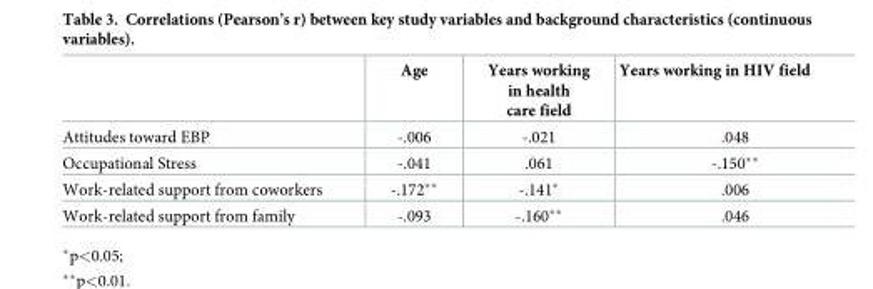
<table><thead><tr><td></td><td>Age</td><td>Years working in health care field</td><td>Years working in HIV field</td></tr></thead><tbody><tr><td>Attitudes toward EBP</td><td>-.006</td><td>-.021</td><td>.048</td></tr><tr><td>Occupational Stress</td><td>-.041</td><td>.061</td><td>-.150**</td></tr><tr><td>Work-related support from coworkers</td><td>-.172**</td><td>-.141*</td><td>.006</td></tr><tr><td>Work-related support from family</td><td>-.093</td><td>-.160**</td><td>.046</td></tr></tbody></table>